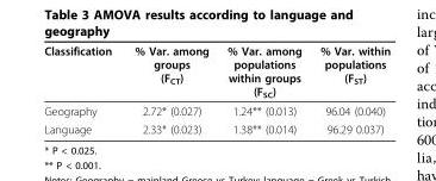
<table><thead><tr><td>Classification</td><td>% Var. among groups (F<sub>CT</sub>)</td><td>% Var. among populations within groups (F<sub>SC</sub>)</td><td>% Var. within populations (F<sub>ST</sub>)</td></tr></thead><tbody><tr><td>Geography</td><td>2.72* (0.027)</td><td>1.24** (0.013)</td><td>96.04 (0.040)</td></tr><tr><td>Language</td><td>2.33* (0.023)</td><td>1.38** (0.014)</td><td>96.29 0.037)</td></tr></tbody></table>